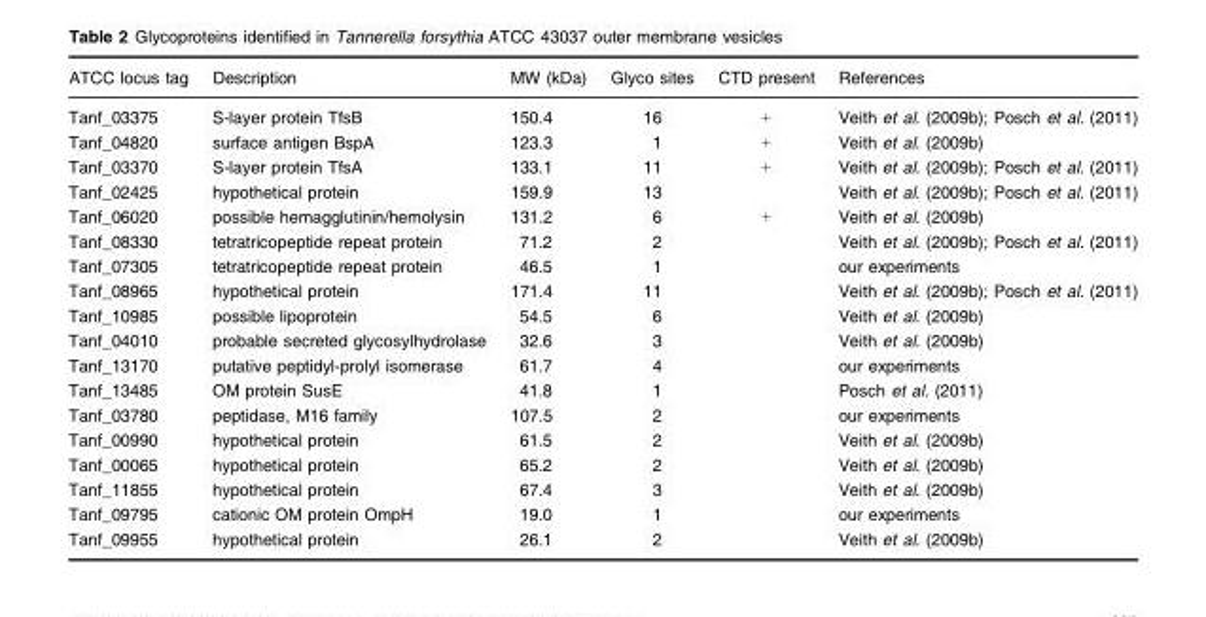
<table><thead><tr><td>ATCC locus tag</td><td>Description</td><td>MW (kDa)</td><td>Glyco sites</td><td>CTD present</td><td>References</td></tr></thead><tbody><tr><td>Tanf_03375</td><td>S-layer protein TfsB</td><td>150.4</td><td>16</td><td>+</td><td>Veith et al. (2009b); Posch et al. (2011)</td></tr><tr><td>Tanf_04820</td><td>surface antigen BspA</td><td>123.3</td><td>1</td><td>+</td><td>Veith et al. (2009b)</td></tr><tr><td>Tanf_03370</td><td>S-layer protein TfsA</td><td>133.1</td><td>11</td><td>+</td><td>Veith et al. (2009b); Posch et al. (2011)</td></tr><tr><td>Tanf_02425</td><td>hypothetical protein</td><td>159.9</td><td>13</td><td></td><td>Veith et al. (2009b); Posch et al. (2011)</td></tr><tr><td>Tanf_06020</td><td>possible hemagglutinin/hemolysin</td><td>131.2</td><td>6</td><td>+</td><td>Veith et al. (2009b)</td></tr><tr><td>Tanf_08330</td><td>tetratricopeptide repeat protein</td><td>71.2</td><td>2</td><td></td><td>Veith et al. (2009b); Posch et al. (2011)</td></tr><tr><td>Tanf_07305</td><td>tetratricopeptide repeat protein</td><td>46.5</td><td>1</td><td></td><td>our experiments</td></tr><tr><td>Tanf_08965</td><td>hypothetical protein</td><td>171.4</td><td>11</td><td></td><td>Veith et al. (2009b); Posch et al. (2011)</td></tr><tr><td>Tanf_10985</td><td>possible lipoprotein</td><td>54.5</td><td>6</td><td></td><td>Veith et al. (2009b)</td></tr><tr><td>Tanf_04010</td><td>probable secreted glycosylhydrolase</td><td>32.6</td><td>3</td><td></td><td>Veith et al. (2009b)</td></tr><tr><td>Tanf_13170</td><td>putative peptidyl-prolyl isomerase</td><td>61.7</td><td>4</td><td></td><td>our experiments</td></tr><tr><td>Tanf_13485</td><td>OM protein SusE</td><td>41.8</td><td>1</td><td></td><td>Posch et al. (2011)</td></tr><tr><td>Tanf_03780</td><td>peptidase, M16 family</td><td>107.5</td><td>2</td><td></td><td>our experiments</td></tr><tr><td>Tanf_00990</td><td>hypothetical protein</td><td>61.5</td><td>2</td><td></td><td>Veith et al. (2009b)</td></tr><tr><td>Tanf_00065</td><td>hypothetical protein</td><td>65.2</td><td>2</td><td></td><td>Veith et al. (2009b)</td></tr><tr><td>Tanf_11855</td><td>hypothetical protein</td><td>67.4</td><td>3</td><td></td><td>Veith et al. (2009b)</td></tr><tr><td>Tanf_09795</td><td>cationic OM protein OmpH</td><td>19.0</td><td>1</td><td></td><td>our experiments</td></tr><tr><td>Tanf_09955</td><td>hypothetical protein</td><td>26.1</td><td>2</td><td></td><td>Veith et al. (2009b)</td></tr></tbody></table>